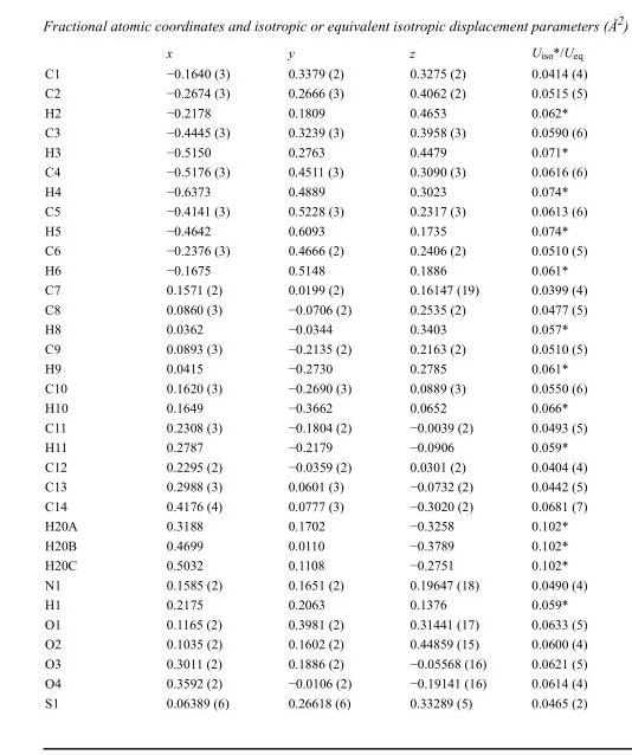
<table><thead><tr><td></td><td>x</td><td>y</td><td>z</td><td>U<sub>iso</sub>*/U<sub>eq</sub></td></tr></thead><tbody><tr><td>C1</td><td>−0.1640 (3)</td><td>0.3379 (2)</td><td>0.3275 (2)</td><td>0.0414 (4)</td></tr><tr><td>C2</td><td>−0.2674 (3)</td><td>0.2666 (3)</td><td>0.4062 (2)</td><td>0.0515 (5)</td></tr><tr><td>H2</td><td>−0.2178</td><td>0.1809</td><td>0.4653</td><td>0.062*</td></tr><tr><td>C3</td><td>−0.4445 (3)</td><td>0.3239 (3)</td><td>0.3958 (3)</td><td>0.0590 (6)</td></tr><tr><td>H3</td><td>−0.5150</td><td>0.2763</td><td>0.4479</td><td>0.071*</td></tr><tr><td>C4</td><td>−0.5176 (3)</td><td>0.4511 (3)</td><td>0.3090 (3)</td><td>0.0616 (6)</td></tr><tr><td>H4</td><td>−0.6373</td><td>0.4889</td><td>0.3023</td><td>0.074*</td></tr><tr><td>C5</td><td>−0.4141 (3)</td><td>0.5228 (3)</td><td>0.2317 (3)</td><td>0.0613 (6)</td></tr><tr><td>H5</td><td>−0.4642</td><td>0.6093</td><td>0.1735</td><td>0.074*</td></tr><tr><td>C6</td><td>−0.2376 (3)</td><td>0.4666 (2)</td><td>0.2406 (2)</td><td>0.0510 (5)</td></tr><tr><td>H6</td><td>−0.1675</td><td>0.5148</td><td>0.1886</td><td>0.061*</td></tr><tr><td>C7</td><td>0.1571 (2)</td><td>0.0199 (2)</td><td>0.16147 (19)</td><td>0.0399 (4)</td></tr><tr><td>C8</td><td>0.0860 (3)</td><td>−0.0706 (2)</td><td>0.2535 (2)</td><td>0.0477 (5)</td></tr><tr><td>H8</td><td>0.0362</td><td>−0.0344</td><td>0.3403</td><td>0.057*</td></tr><tr><td>C9</td><td>0.0893 (3)</td><td>−0.2135 (2)</td><td>0.2163 (2)</td><td>0.0510 (5)</td></tr><tr><td>H9</td><td>0.0415</td><td>−0.2730</td><td>0.2785</td><td>0.061*</td></tr><tr><td>C10</td><td>0.1620 (3)</td><td>−0.2690 (3)</td><td>0.0889 (3)</td><td>0.0550 (6)</td></tr><tr><td>H10</td><td>0.1649</td><td>−0.3662</td><td>0.0652</td><td>0.066*</td></tr><tr><td>C11</td><td>0.2308 (3)</td><td>−0.1804 (2)</td><td>−0.0039 (2)</td><td>0.0493 (5)</td></tr><tr><td>H11</td><td>0.2787</td><td>−0.2179</td><td>−0.0906</td><td>0.059*</td></tr><tr><td>C12</td><td>0.2295 (2)</td><td>−0.0359 (2)</td><td>0.0301 (2)</td><td>0.0404 (4)</td></tr><tr><td>C13</td><td>0.2988 (3)</td><td>0.0601 (3)</td><td>−0.0732 (2)</td><td>0.0442 (5)</td></tr><tr><td>C14</td><td>0.4176 (4)</td><td>0.0777 (3)</td><td>−0.3020 (2)</td><td>0.0681 (7)</td></tr><tr><td>H20A</td><td>0.3188</td><td>0.1702</td><td>−0.3258</td><td>0.102*</td></tr><tr><td>H20B</td><td>0.4699</td><td>0.0110</td><td>−0.3789</td><td>0.102*</td></tr><tr><td>H20C</td><td>0.5032</td><td>0.1108</td><td>−0.2751</td><td>0.102*</td></tr><tr><td>N1</td><td>0.1585 (2)</td><td>0.1651 (2)</td><td>0.19647 (18)</td><td>0.0490 (4)</td></tr><tr><td>H1</td><td>0.2175</td><td>0.2063</td><td>0.1376</td><td>0.059*</td></tr><tr><td>O1</td><td>0.1165 (2)</td><td>0.3981 (2)</td><td>0.31441 (17)</td><td>0.0633 (5)</td></tr><tr><td>O2</td><td>0.1035 (2)</td><td>0.1602 (2)</td><td>0.44859 (15)</td><td>0.0600 (4)</td></tr><tr><td>O3</td><td>0.3011 (2)</td><td>0.1886 (2)</td><td>−0.05568 (16)</td><td>0.0621 (5)</td></tr><tr><td>O4</td><td>0.3592 (2)</td><td>−0.0106 (2)</td><td>−0.19141 (16)</td><td>0.0614 (4)</td></tr><tr><td>S1</td><td>0.06389 (6)</td><td>0.26618 (6)</td><td>0.33289 (5)</td><td>0.0465 (2)</td></tr></tbody></table>